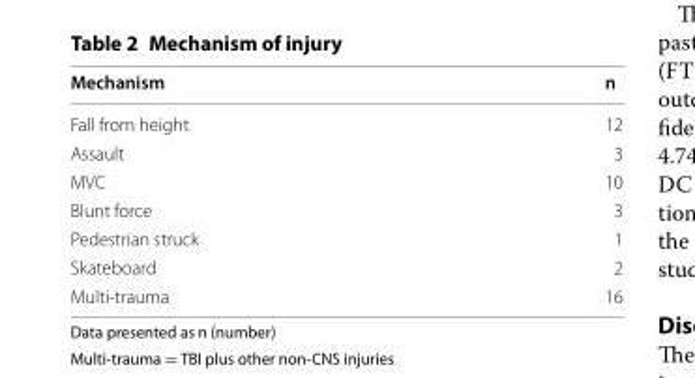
<table><thead><tr><td>Mechanism</td><td>n</td></tr></thead><tbody><tr><td>Fall from height</td><td>12</td></tr><tr><td>Assault</td><td>3</td></tr><tr><td>MVC</td><td>10</td></tr><tr><td>Blunt force</td><td>3</td></tr><tr><td>Pedestrian struck</td><td>1</td></tr><tr><td>Skateboard</td><td>2</td></tr><tr><td>Multi-trauma</td><td>16</td></tr></tbody></table>